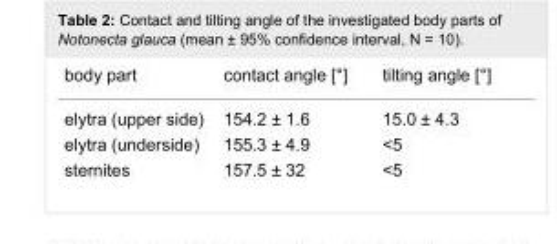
<table><tbody><tr><td>body part</td><td>contact angle [°]</td><td>tilting angle [°]</td></tr><tr><td>elytra (upper side)</td><td>154.2 ± 1.6</td><td>15.0 ± 4.3</td></tr><tr><td>elytra (underside)</td><td>155.3 ± 4.9</td><td>&lt;5</td></tr><tr><td>sternites</td><td>157.5 ± 32</td><td>&lt;5</td></tr></tbody></table>